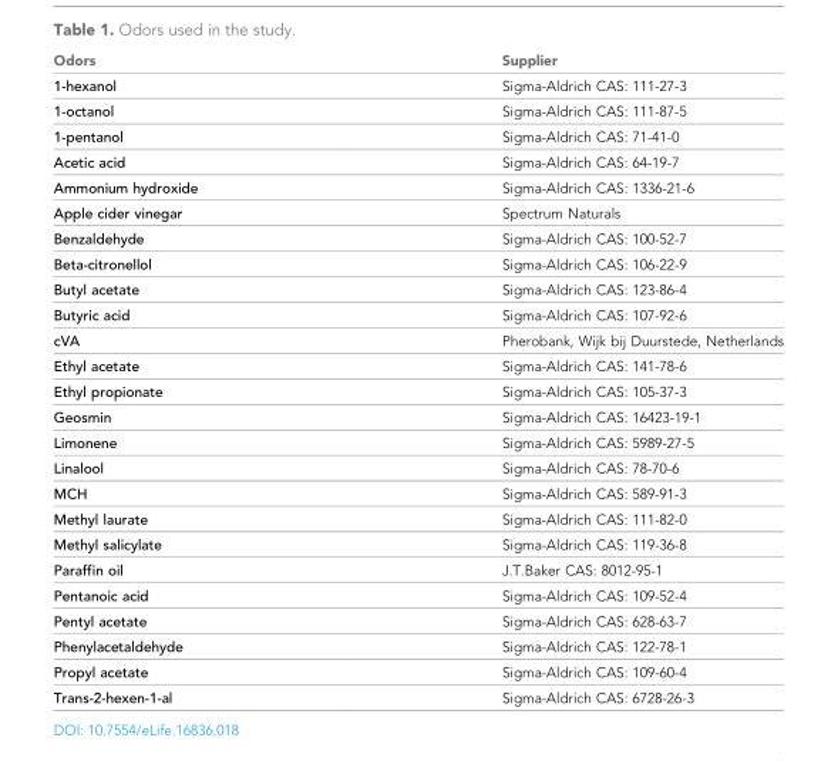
<table><thead><tr><td>Odors</td><td>Supplier</td></tr></thead><tbody><tr><td>1-hexanol</td><td>Sigma-Aldrich CAS: 111-27-3</td></tr><tr><td>1-octanol</td><td>Sigma-Aldrich CAS: 111-87-5</td></tr><tr><td>1-pentanol</td><td>Sigma-Aldrich CAS: 71-41-0</td></tr><tr><td>Acetic acid</td><td>Sigma-Aldrich CAS: 64-19-7</td></tr><tr><td>Ammonium hydroxide</td><td>Sigma-Aldrich CAS: 1336-21-6</td></tr><tr><td>Apple cider vinegar</td><td>Spectrum Naturals</td></tr><tr><td>Benzaldehyde</td><td>Sigma-Aldrich CAS: 100-52-7</td></tr><tr><td>Beta-citronellol</td><td>Sigma-Aldrich CAS: 106-22-9</td></tr><tr><td>Butyl acetate</td><td>Sigma-Aldrich CAS: 123-86-4</td></tr><tr><td>Butyric acid</td><td>Sigma-Aldrich CAS: 107-92-6</td></tr><tr><td>cVA</td><td>Pherobank, Wijk bij Duurstede, Netherlands</td></tr><tr><td>Ethyl acetate</td><td>Sigma-Aldrich CAS: 141-78-6</td></tr><tr><td>Ethyl propionate</td><td>Sigma-Aldrich CAS: 105-37-3</td></tr><tr><td>Geosmin</td><td>Sigma-Aldrich CAS: 16423-19-1</td></tr><tr><td>Limonene</td><td>Sigma-Aldrich CAS: 5989-27-5</td></tr><tr><td>Linalool</td><td>Sigma-Aldrich CAS: 78-70-6</td></tr><tr><td>MCH</td><td>Sigma-Aldrich CAS: 589-91-3</td></tr><tr><td>Methyl laurate</td><td>Sigma-Aldrich CAS: 111-82-0</td></tr><tr><td>Methyl salicylate</td><td>Sigma-Aldrich CAS: 119-36-8</td></tr><tr><td>Paraffin oil</td><td>J.T.Baker CAS: 8012-95-1</td></tr><tr><td>Pentanoic acid</td><td>Sigma-Aldrich CAS: 109-52-4</td></tr><tr><td>Pentyl acetate</td><td>Sigma-Aldrich CAS: 628-63-7</td></tr><tr><td>Phenylacetaldehyde</td><td>Sigma-Aldrich CAS: 122-78-1</td></tr><tr><td>Propyl acetate</td><td>Sigma-Aldrich CAS: 109-60-4</td></tr><tr><td>Trans-2-hexen-1-al</td><td>Sigma-Aldrich CAS: 6728-26-3</td></tr></tbody></table>